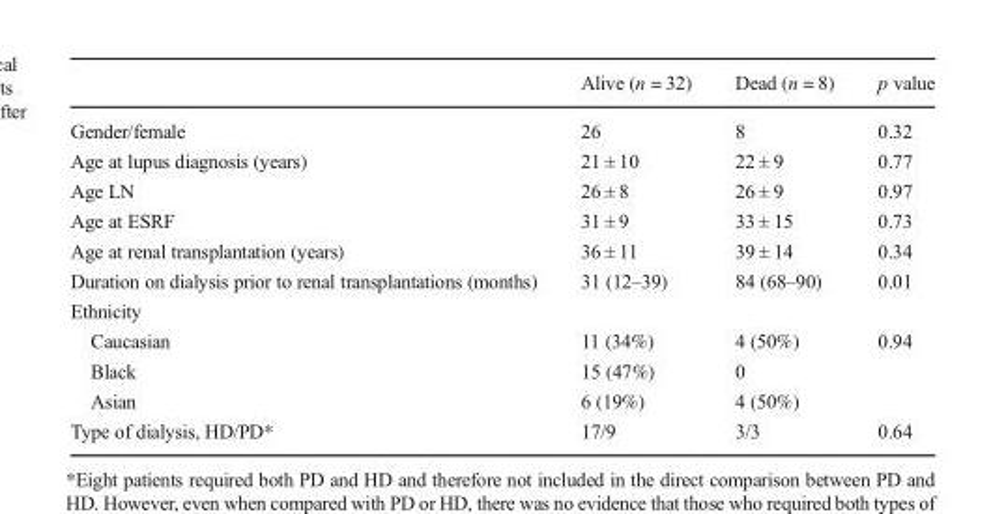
<table><thead><tr><td></td><td>Alive (n = 32)</td><td>Dead (n = 8)</td><td>p value</td></tr></thead><tbody><tr><td>Gender/female</td><td>26</td><td>8</td><td>0.32</td></tr><tr><td>Age at lupus diagnosis (years)</td><td>21 ± 10</td><td>22 ± 9</td><td>0.77</td></tr><tr><td>Age LN</td><td>26 ± 8</td><td>26 ± 9</td><td>0.97</td></tr><tr><td>Age at ESRF</td><td>31 ± 9</td><td>33 ± 15</td><td>0.73</td></tr><tr><td>Age at renal transplantation (years)</td><td>36 ± 11</td><td>39 ± 14</td><td>0.34</td></tr><tr><td>Duration on dialysis prior to renal transplantations (months)</td><td>31 (12–39)</td><td>84 (68–90)</td><td>0.01</td></tr><tr><td colspan="4">Ethnicity</td></tr><tr><td>Caucasian</td><td>11 (34%)</td><td>4 (50%)</td><td>0.94</td></tr><tr><td>Black</td><td>15 (47%)</td><td>0</td><td></td></tr><tr><td>Asian</td><td>6 (19%)</td><td>4 (50%)</td><td></td></tr><tr><td>Type of dialysis, HD/PD*</td><td>17/9</td><td>3/3</td><td>0.64</td></tr></tbody></table>